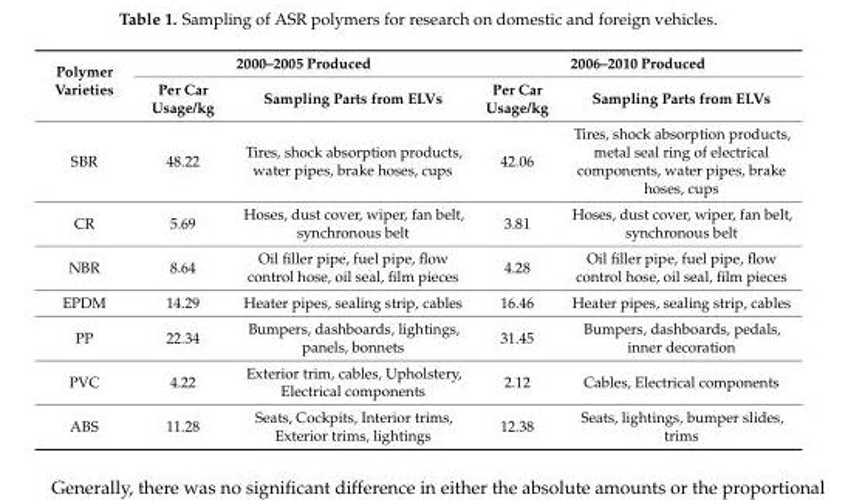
<table><thead><tr><td rowspan="2">Polymer Varieties</td><td colspan="2">2000–2005 Produced</td><td colspan="2">2006–2010 Produced</td></tr><tr><td>Per Car Usage/kg</td><td>Sampling Parts from ELVs</td><td>Per Car Usage/kg</td><td>Sampling Parts from ELVs</td></tr></thead><tbody><tr><td>SBR</td><td>48.22</td><td>Tires, shock absorption products, water pipes, brake hoses, cups</td><td>42.06</td><td>Tires, shock absorption products, metal seal ring of electrical components, water pipes, brake hoses, cups</td></tr><tr><td>CR</td><td>5.69</td><td>Hoses, dust cover, wiper, fan belt, synchronous belt</td><td>3.81</td><td>Hoses, dust cover, wiper, fan belt, synchronous belt</td></tr><tr><td>NBR</td><td>8.64</td><td>Oil filler pipe, fuel pipe, flow control hose, oil seal, film pieces</td><td>4.28</td><td>Oil filler pipe, fuel pipe, flow control hose, oil seal, film pieces</td></tr><tr><td>EPDM</td><td>14.29</td><td>Heater pipes, sealing strip, cables</td><td>16.46</td><td>Heater pipes, sealing strip, cables</td></tr><tr><td>PP</td><td>22.34</td><td>Bumpers, dashboards, lightings, panels, bonnets</td><td>31.45</td><td>Bumpers, dashboards, pedals, inner decoration</td></tr><tr><td>PVC</td><td>4.22</td><td>Exterior trim, cables, Upholstery, Electrical components</td><td>2.12</td><td>Cables, Electrical components</td></tr><tr><td>ABS</td><td>11.28</td><td>Seats, Cockpits, Interior trims, Exterior trims, lightings</td><td>12.38</td><td>Seats, lightings, bumper slides, trims</td></tr></tbody></table>